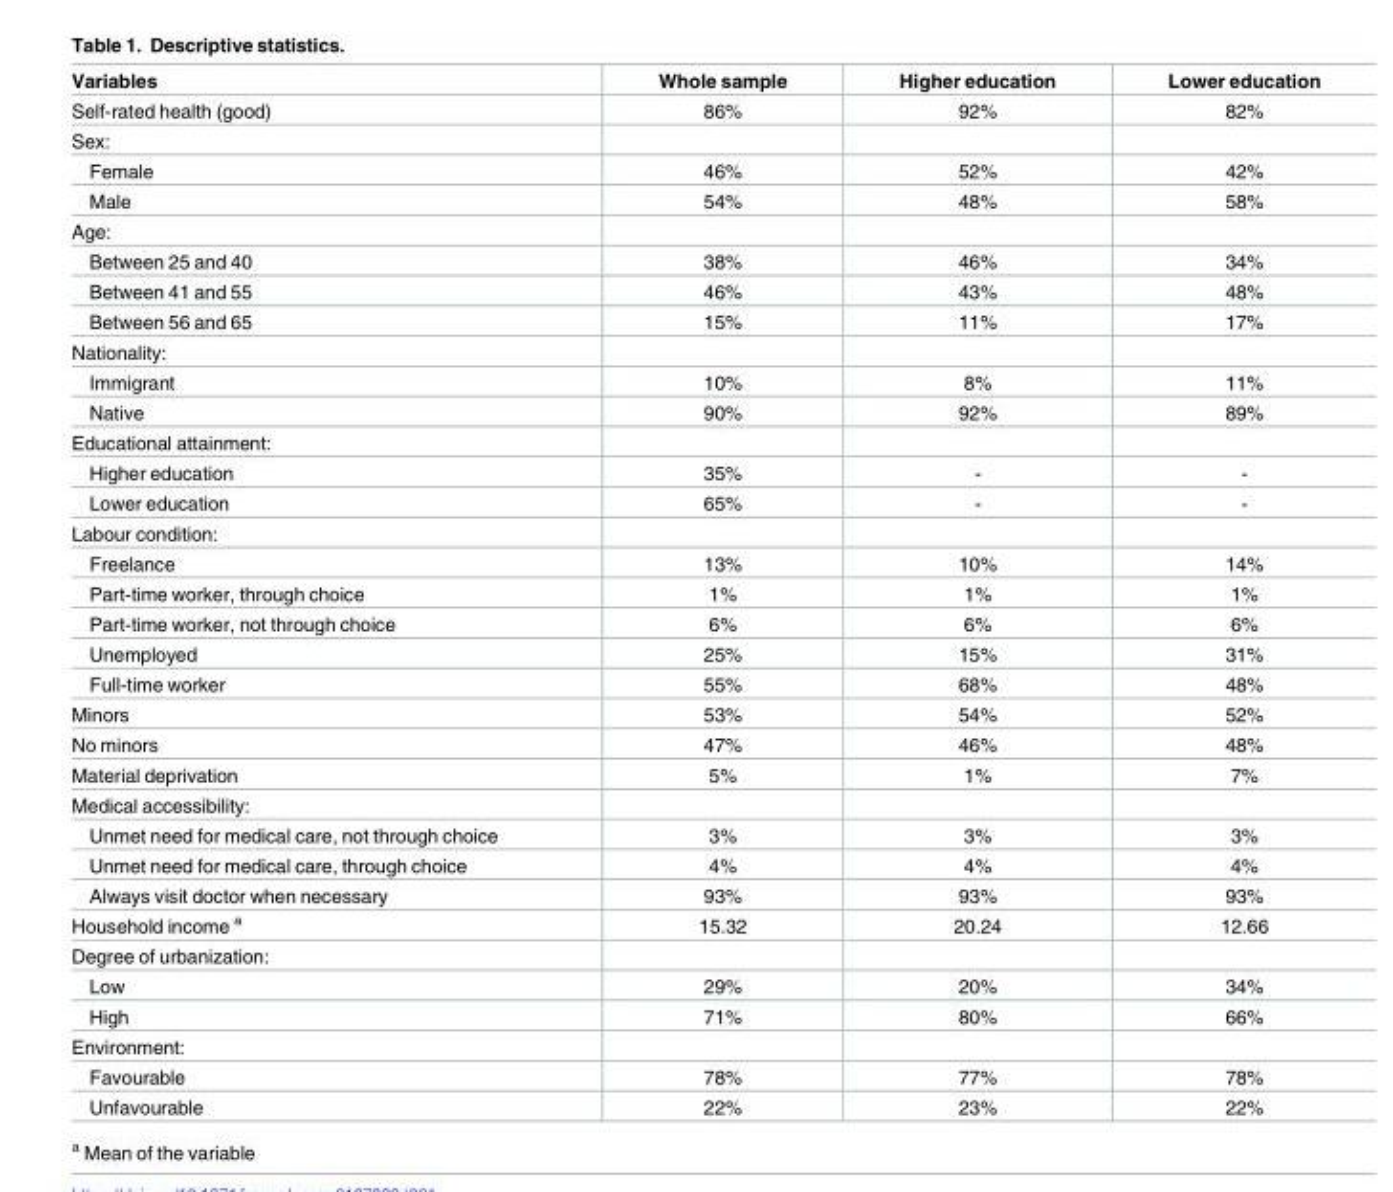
<table><thead><tr><td>Variables</td><td>Whole sample</td><td>Higher education</td><td>Lower education</td></tr></thead><tbody><tr><td>Self-rated health (good)</td><td>86%</td><td>92%</td><td>82%</td></tr><tr><td colspan="4">Sex:</td></tr><tr><td>Female</td><td>46%</td><td>52%</td><td>42%</td></tr><tr><td>Male</td><td>54%</td><td>48%</td><td>58%</td></tr><tr><td colspan="4">Age:</td></tr><tr><td>Between 25 and 40</td><td>38%</td><td>46%</td><td>34%</td></tr><tr><td>Between 41 and 55</td><td>46%</td><td>43%</td><td>48%</td></tr><tr><td>Between 56 and 65</td><td>15%</td><td>11%</td><td>17%</td></tr><tr><td colspan="4">Nationality:</td></tr><tr><td>Immigrant</td><td>10%</td><td>8%</td><td>11%</td></tr><tr><td>Native</td><td>90%</td><td>92%</td><td>89%</td></tr><tr><td colspan="4">Educational attainment:</td></tr><tr><td>Higher education</td><td>35%</td><td>-</td><td>-</td></tr><tr><td>Lower education</td><td>65%</td><td>-</td><td>-</td></tr><tr><td colspan="4">Labour condition:</td></tr><tr><td>Freelance</td><td>13%</td><td>10%</td><td>14%</td></tr><tr><td>Part-time worker, through choice</td><td>1%</td><td>1%</td><td>1%</td></tr><tr><td>Part-time worker, not through choice</td><td>6%</td><td>6%</td><td>6%</td></tr><tr><td>Unemployed</td><td>25%</td><td>15%</td><td>31%</td></tr><tr><td>Full-time worker</td><td>55%</td><td>68%</td><td>48%</td></tr><tr><td>Minors</td><td>53%</td><td>54%</td><td>52%</td></tr><tr><td>No minors</td><td>47%</td><td>46%</td><td>48%</td></tr><tr><td>Material deprivation</td><td>5%</td><td>1%</td><td>7%</td></tr><tr><td colspan="4">Medical accessibility:</td></tr><tr><td>Unmet need for medical care, not through choice</td><td>3%</td><td>3%</td><td>3%</td></tr><tr><td>Unmet need for medical care, through choice</td><td>4%</td><td>4%</td><td>4%</td></tr><tr><td>Always visit doctor when necessary</td><td>93%</td><td>93%</td><td>93%</td></tr><tr><td>Household income <sup>a</sup></td><td>15.32</td><td>20.24</td><td>12.66</td></tr><tr><td colspan="4">Degree of urbanization:</td></tr><tr><td>Low</td><td>29%</td><td>20%</td><td>34%</td></tr><tr><td>High</td><td>71%</td><td>80%</td><td>66%</td></tr><tr><td colspan="4">Environment:</td></tr><tr><td>Favourable</td><td>78%</td><td>77%</td><td>78%</td></tr><tr><td>Unfavourable</td><td>22%</td><td>23%</td><td>22%</td></tr></tbody></table>